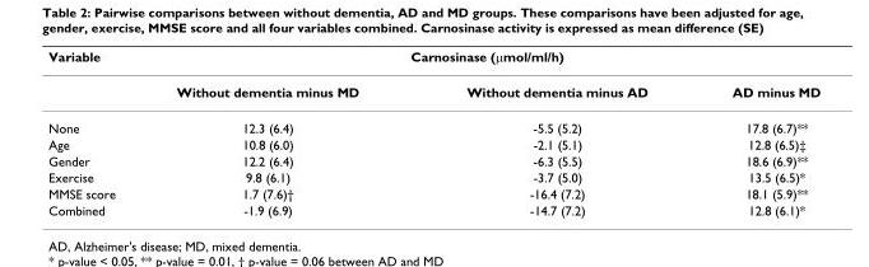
<table><thead><tr><td rowspan="2">Variable</td><td colspan="3">Carnosinase (µmol/ml/h)</td></tr><tr><td>Without dementia minus MD</td><td>Without dementia minus AD</td><td>AD minus MD</td></tr></thead><tbody><tr><td>None</td><td>12.3 (6.4)</td><td>-5.5 (5.2)</td><td>17.8 (6.7)**</td></tr><tr><td>Age</td><td>10.8 (6.0)</td><td>-2.1 (5.1)</td><td>12.8 (6.5)‡</td></tr><tr><td>Gender</td><td>12.2 (6.4)</td><td>-6.3 (5.5)</td><td>18.6 (6.9)**</td></tr><tr><td>Exercise</td><td>9.8 (6.1)</td><td>-3.7 (5.0)</td><td>13.5 (6.5)*</td></tr><tr><td>MMSE score</td><td>1.7 (7.6)†</td><td>-16.4 (7.2)</td><td>18.1 (5.9)**</td></tr><tr><td>Combined</td><td>-1.9 (6.9)</td><td>-14.7 (7.2)</td><td>12.8 (6.1)*</td></tr></tbody></table>